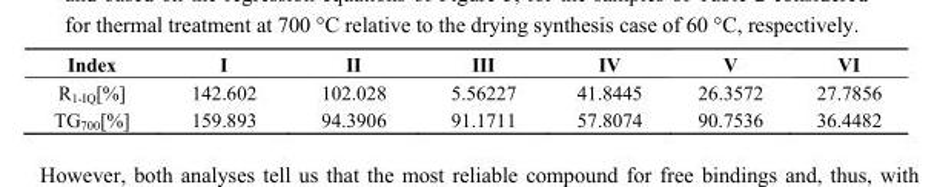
<table><thead><tr><td>Index</td><td>I</td><td>II</td><td>III</td><td>IV</td><td>V</td><td>VI</td></tr></thead><tbody><tr><td>R<sub>1-IQ</sub>[%]</td><td>142.602</td><td>102.028</td><td>5.56227</td><td>41.8445</td><td>26.3572</td><td>27.7856</td></tr><tr><td>TG<sub>700</sub>[%]</td><td>159.893</td><td>94.3906</td><td>91.1711</td><td>57.8074</td><td>90.7536</td><td>36.4482</td></tr></tbody></table>